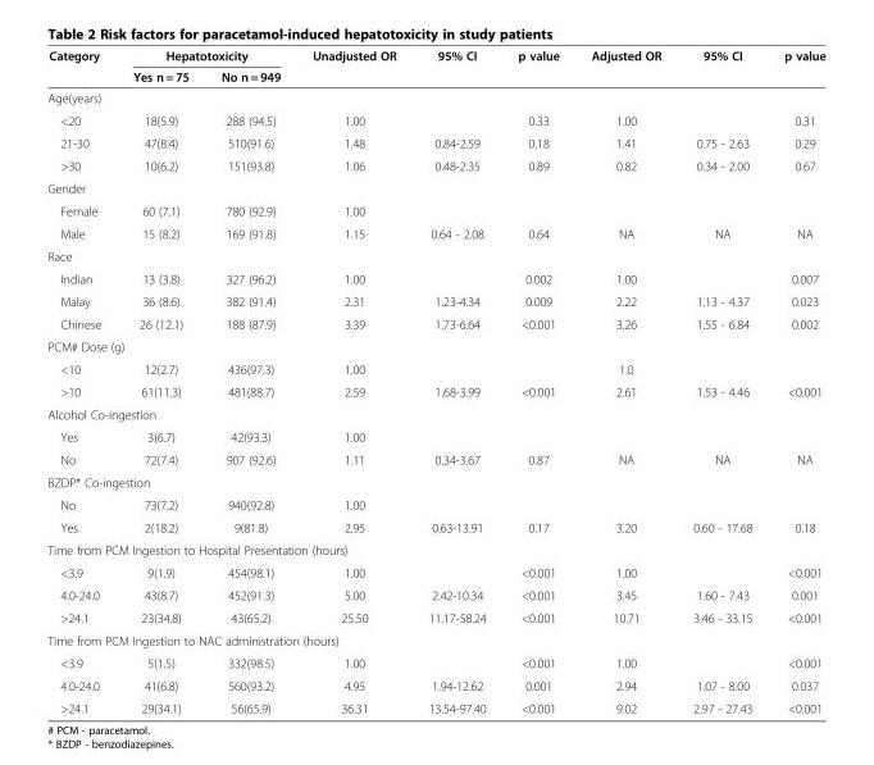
<table><thead><tr><td rowspan="2">Category</td><td colspan="2">Hepatotoxicity</td><td rowspan="2">Unadjusted OR</td><td rowspan="2">95% CI</td><td rowspan="2">p value</td><td rowspan="2">Adjusted OR</td><td rowspan="2">95% CI</td><td rowspan="2">p value</td></tr><tr><td>Yes n = 75</td><td>No n = 949</td></tr></thead><tbody><tr><td colspan="9">Age(years)</td></tr><tr><td>&lt;20</td><td>18(5.9)</td><td>288 (94.5)</td><td>1.00</td><td></td><td>0.33</td><td>1.00</td><td></td><td>0.31</td></tr><tr><td>21-30</td><td>47(8.4)</td><td>510(91.6)</td><td>1.48</td><td>0.84-2.59</td><td>0.18</td><td>1.41</td><td>0.75 - 2.63</td><td>0.29</td></tr><tr><td>&gt;30</td><td>10(6.2)</td><td>151(93.8)</td><td>1.06</td><td>0.48-2.35</td><td>0.89</td><td>0.82</td><td>0.34 - 2.00</td><td>0.67</td></tr><tr><td colspan="9">Gender</td></tr><tr><td>Female</td><td>60 (7.1)</td><td>780 (92.9)</td><td>1.00</td><td></td><td></td><td></td><td></td><td></td></tr><tr><td>Male</td><td>15 (8.2)</td><td>169 (91.8)</td><td>1.15</td><td>0.64 - 2.08</td><td>0.64</td><td>NA</td><td>NA</td><td>NA</td></tr><tr><td colspan="9">Race</td></tr><tr><td>Indian</td><td>13 (3.8)</td><td>327 (96.2)</td><td>1.00</td><td></td><td>0.002</td><td>1.00</td><td></td><td>0.007</td></tr><tr><td>Malay</td><td>36 (8.6)</td><td>382 (91.4)</td><td>2.31</td><td>1.23-4.34</td><td>0.009</td><td>2.22</td><td>1.13 - 4.37</td><td>0.023</td></tr><tr><td>Chinese</td><td>26 (12.1)</td><td>188 (87.9)</td><td>3.39</td><td>1.73-6.64</td><td>&lt;0.001</td><td>3.26</td><td>1.55 - 6.84</td><td>0.002</td></tr><tr><td colspan="9">PCM# Dose (g)</td></tr><tr><td>&lt;10</td><td>12(2.7)</td><td>436(97.3)</td><td>1.00</td><td></td><td></td><td>1.0</td><td></td><td></td></tr><tr><td>&gt;10</td><td>61(11.3)</td><td>481(88.7)</td><td>2.59</td><td>1.68-3.99</td><td>&lt;0.001</td><td>2.61</td><td>1.53 - 4.46</td><td>&lt;0.001</td></tr><tr><td colspan="9">Alcohol Co-ingestion</td></tr><tr><td>Yes</td><td>3(6.7)</td><td>42(93.3)</td><td>1.00</td><td></td><td></td><td></td><td></td><td></td></tr><tr><td>No</td><td>72(7.4)</td><td>907 (92.6)</td><td>1.11</td><td>0.34-3.67</td><td>0.87</td><td>NA</td><td>NA</td><td>NA</td></tr><tr><td colspan="9">BZDP* Co-ingestion</td></tr><tr><td>No</td><td>73(7.2)</td><td>940(92.8)</td><td>1.00</td><td></td><td></td><td></td><td></td><td></td></tr><tr><td>Yes</td><td>2(18.2)</td><td>9(81.8)</td><td>2.95</td><td>0.63-13.91</td><td>0.17</td><td>3.20</td><td>0.60 - 17.68</td><td>0.18</td></tr><tr><td colspan="9">Time from PCM Ingestion to Hospital Presentation (hours)</td></tr><tr><td>&lt;3.9</td><td>9(1.9)</td><td>454(98.1)</td><td>1.00</td><td></td><td>&lt;0.001</td><td>1.00</td><td></td><td>&lt;0.001</td></tr><tr><td>4.0-24.0</td><td>43(8.7)</td><td>452(91.3)</td><td>5.00</td><td>2.42-10.34</td><td>&lt;0.001</td><td>3.45</td><td>1.60 - 7.43</td><td>0.001</td></tr><tr><td>&gt;24.1</td><td>23(34.8)</td><td>43(65.2)</td><td>25.50</td><td>11.17-58.24</td><td>&lt;0.001</td><td>10.71</td><td>3.46 - 33.15</td><td>&lt;0.001</td></tr><tr><td colspan="9">Time from PCM Ingestion to NAC administration (hours)</td></tr><tr><td>&lt;3.9</td><td>5(1.5)</td><td>332(98.5)</td><td>1.00</td><td></td><td>&lt;0.001</td><td>1.00</td><td></td><td>&lt;0.001</td></tr><tr><td>4.0-24.0</td><td>41(6.8)</td><td>560(93.2)</td><td>4.95</td><td>1.94-12.62</td><td>0.001</td><td>2.94</td><td>1.07 - 8.00</td><td>0.037</td></tr><tr><td>&gt;24.1</td><td>29(34.1)</td><td>56(65.9)</td><td>36.31</td><td>13.54-97.40</td><td>&lt;0.001</td><td>9.02</td><td>2.97 - 27.43</td><td>&lt;0.001</td></tr></tbody></table>